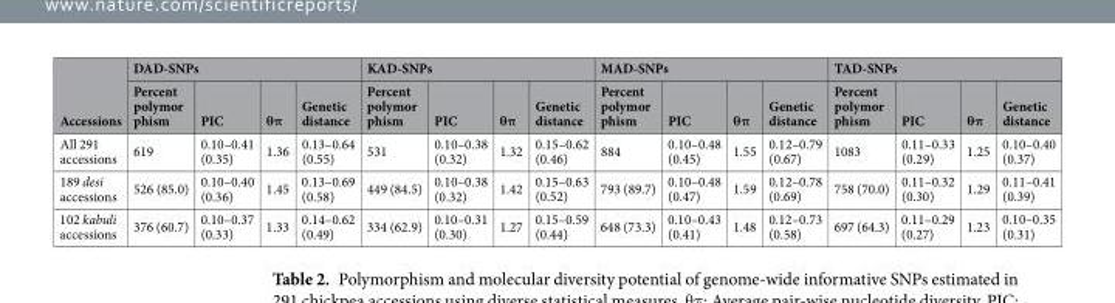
<table><thead><tr><td rowspan="2">Accessions</td><td colspan="4">DAD-SNPs</td><td colspan="4">KAD-SNPs</td><td colspan="4">MAD-SNPs</td><td colspan="4">TAD-SNPs</td></tr><tr><td>Percent polymor phism</td><td>PIC</td><td>θπ</td><td>Genetic distance</td><td>Percent polymor phism</td><td>PIC</td><td>θπ</td><td>Genetic distance</td><td>Percent polymor phism</td><td>PIC</td><td>θπ</td><td>Genetic distance</td><td>Percent polymor phism</td><td>PIC</td><td>θπ</td><td>Genetic distance</td></tr></thead><tbody><tr><td>All 291 accessions</td><td>619</td><td>0.10–0.41 (0.35)</td><td>1.36</td><td>0.13–0.64 (0.55)</td><td>531</td><td>0.10–0.38 (0.32)</td><td>1.32</td><td>0.15–0.62 (0.46)</td><td>884</td><td>0.10–0.48 (0.45)</td><td>1.55</td><td>0.12–0.79 (0.67)</td><td>1083</td><td>0.11–0.33 (0.29)</td><td>1.25</td><td>0.10–0.40 (0.37)</td></tr><tr><td>189 desi accessions</td><td>526 (85.0)</td><td>0.10–0.40 (0.36)</td><td>1.45</td><td>0.13–0.69 (0.58)</td><td>449 (84.5)</td><td>0.10–0.38 (0.32)</td><td>1.42</td><td>0.15–0.63 (0.52)</td><td>793 (89.7)</td><td>0.10–0.48 (0.47)</td><td>1.59</td><td>0.12–0.78 (0.69)</td><td>758 (70.0)</td><td>0.11–0.32 (0.30)</td><td>1.29</td><td>0.11–0.41 (0.39)</td></tr><tr><td>102 kabuli accessions</td><td>376 (60.7)</td><td>0.10–0.37 (0.33)</td><td>1.33</td><td>0.14–0.62 (0.49)</td><td>334 (62.9)</td><td>0.10–0.31 (0.30)</td><td>1.27</td><td>0.15–0.59 (0.44)</td><td>648 (73.3)</td><td>0.10–0.43 (0.41)</td><td>1.48</td><td>0.12–0.73 (0.58)</td><td>697 (64.3)</td><td>0.11–0.29 (0.27)</td><td>1.23</td><td>0.10–0.35 (0.31)</td></tr></tbody></table>